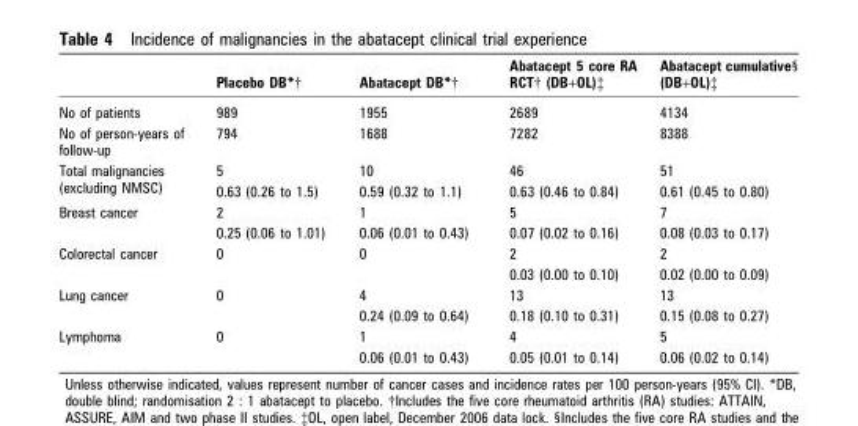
<table><thead><tr><td></td><td>Placebo DB*†</td><td>Abatacept DB*†</td><td>Abatacept 5 core RA RCT† (DB+OL)‡</td><td>Abatacept cumulative§ (DB+OL)‡</td></tr></thead><tbody><tr><td>No of patients</td><td>989</td><td>1955</td><td>2689</td><td>4134</td></tr><tr><td>No of person-years of follow-up</td><td>794</td><td>1688</td><td>7282</td><td>8388</td></tr><tr><td rowspan="2">Total malignancies (excluding NMSC)</td><td>5</td><td>10</td><td>46</td><td>51</td></tr><tr><td>0.63 (0.26 to 1.5)</td><td>0.59 (0.32 to 1.1)</td><td>0.63 (0.46 to 0.84)</td><td>0.61 (0.45 to 0.80)</td></tr><tr><td rowspan="2">Breast cancer</td><td>2</td><td>1</td><td>5</td><td>7</td></tr><tr><td>0.25 (0.06 to 1.01)</td><td>0.06 (0.01 to 0.43)</td><td>0.07 (0.02 to 0.16)</td><td>0.08 (0.03 to 0.17)</td></tr><tr><td rowspan="2">Colorectal cancer</td><td rowspan="2">0</td><td rowspan="2">0</td><td>2</td><td>2</td></tr><tr><td>0.03 (0.00 to 0.10)</td><td>0.02 (0.00 to 0.09)</td></tr><tr><td rowspan="2">Lung cancer</td><td rowspan="2">0</td><td>4</td><td>13</td><td>13</td></tr><tr><td>0.24 (0.09 to 0.64)</td><td>0.18 (0.10 to 0.31)</td><td>0.15 (0.08 to 0.27)</td></tr><tr><td rowspan="2">Lymphoma</td><td rowspan="2">0</td><td>1</td><td>4</td><td>5</td></tr><tr><td>0.06 (0.01 to 0.43)</td><td>0.05 (0.01 to 0.14)</td><td>0.06 (0.02 to 0.14)</td></tr></tbody></table>